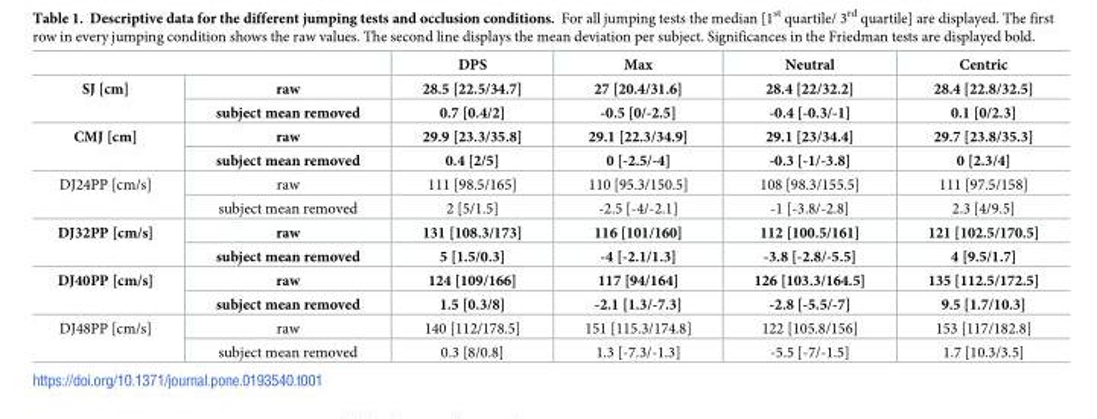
<table><thead><tr><td></td><td></td><td>DPS</td><td>Max</td><td>Neutral</td><td>Centric</td></tr></thead><tbody><tr><td rowspan="2">SJ [cm]</td><td>raw</td><td>28.5 [22.5/34.7]</td><td>27 [20.4/31.6]</td><td>28.4 [22/32.2]</td><td>28.4 [22.8/32.5]</td></tr><tr><td>subject mean removed</td><td>0.7 [0.4/2]</td><td>-0.5 [0/-2.5]</td><td>-0.4 [-0.3/-1]</td><td>0.1 [0/2.3]</td></tr><tr><td rowspan="2">CMJ [cm]</td><td>raw</td><td>29.9 [23.3/35.8]</td><td>29.1 [22.3/34.9]</td><td>29.1 [23/34.4]</td><td>29.7 [23.8/35.3]</td></tr><tr><td>subject mean removed</td><td>0.4 [2/5]</td><td>0 [-2.5/-4]</td><td>-0.3 [-1/-3.8]</td><td>0 [2.3/4]</td></tr><tr><td rowspan="2">DJ24PP [cm/s]</td><td>raw</td><td>111 [98.5/165]</td><td>110 [95.3/150.5]</td><td>108 [98.3/155.5]</td><td>111 [97.5/158]</td></tr><tr><td>subject mean removed</td><td>2 [5/1.5]</td><td>-2.5 [-4/-2.1]</td><td>-1 [-3.8/-2.8]</td><td>2.3 [4/9.5]</td></tr><tr><td rowspan="2">DJ32PP [cm/s]</td><td>raw</td><td>131 [108.3/173]</td><td>116 [101/160]</td><td>112 [100.5/161]</td><td>121 [102.5/170.5]</td></tr><tr><td>subject mean removed</td><td>5 [1.5/0.3]</td><td>-4 [-2.1/1.3]</td><td>-3.8 [-2.8/-5.5]</td><td>4 [9.5/1.7]</td></tr><tr><td rowspan="2">DJ40PP [cm/s]</td><td>raw</td><td>124 [109/166]</td><td>117 [94/164]</td><td>126 [103.3/164.5]</td><td>135 [112.5/172.5]</td></tr><tr><td>subject mean removed</td><td>1.5 [0.3/8]</td><td>-2.1 [1.3/-7.3]</td><td>-2.8 [-5.5/-7]</td><td>9.5 [1.7/10.3]</td></tr><tr><td rowspan="2">DJ48PP [cm/s]</td><td>raw</td><td>140 [112/178.5]</td><td>151 [115.3/174.8]</td><td>122 [105.8/156]</td><td>153 [117/182.8]</td></tr><tr><td>subject mean removed</td><td>0.3 [8/0.8]</td><td>1.3 [-7.3/-1.3]</td><td>-5.5 [-7/-1.5]</td><td>1.7 [10.3/3.5]</td></tr></tbody></table>